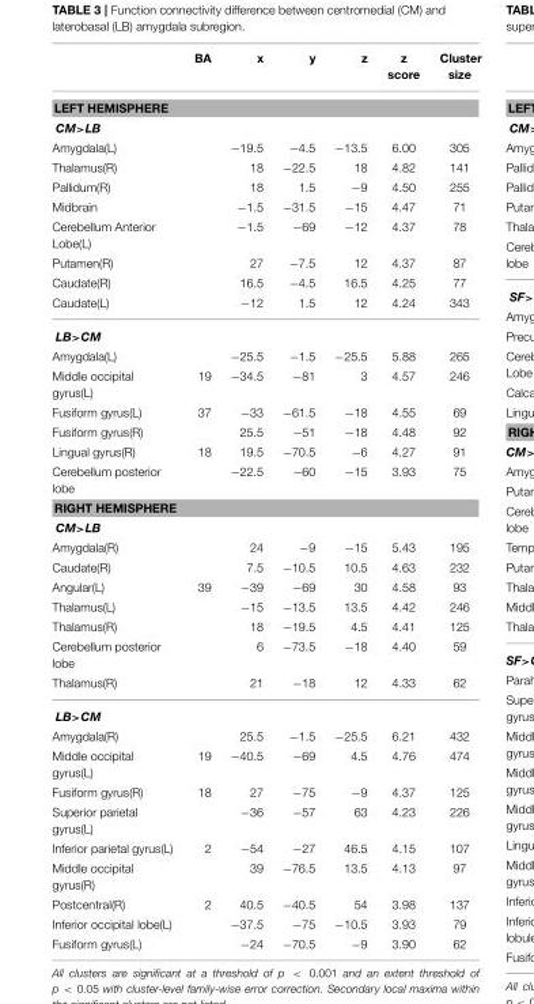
<table><thead><tr><td></td><td>BA</td><td>x</td><td>y</td><td>z</td><td>z score</td><td>Cluster size</td></tr></thead><tbody><tr><td colspan="7">LEFT HEMISPHERE</td></tr><tr><td colspan="7">CM&gt;LB</td></tr><tr><td>Amygdala(L)</td><td></td><td>−19.5</td><td>−4.5</td><td>−13.5</td><td>6.00</td><td>305</td></tr><tr><td>Thalamus(R)</td><td></td><td>18</td><td>−22.5</td><td>18</td><td>4.82</td><td>141</td></tr><tr><td>Pallidum(R)</td><td></td><td>18</td><td>1.5</td><td>−9</td><td>4.50</td><td>255</td></tr><tr><td>Midbrain</td><td></td><td>−1.5</td><td>−31.5</td><td>−15</td><td>4.47</td><td>71</td></tr><tr><td>Cerebellum Anterior Lobe(L)</td><td></td><td>−1.5</td><td>−69</td><td>−12</td><td>4.37</td><td>78</td></tr><tr><td>Putamen(R)</td><td></td><td>27</td><td>−7.5</td><td>12</td><td>4.37</td><td>87</td></tr><tr><td>Caudate(R)</td><td></td><td>16.5</td><td>−4.5</td><td>16.5</td><td>4.25</td><td>77</td></tr><tr><td>Caudate(L)</td><td></td><td>−12</td><td>1.5</td><td>12</td><td>4.24</td><td>343</td></tr><tr><td colspan="7">LB&gt;CM</td></tr><tr><td>Amygdala(L)</td><td></td><td>−25.5</td><td>−1.5</td><td>−25.5</td><td>5.88</td><td>265</td></tr><tr><td>Middle occipital gyrus(L)</td><td>19</td><td>−34.5</td><td>−81</td><td>3</td><td>4.57</td><td>246</td></tr><tr><td>Fusiform gyrus(L)</td><td>37</td><td>−33</td><td>−61.5</td><td>−18</td><td>4.55</td><td>69</td></tr><tr><td>Fusiform gyrus(R)</td><td></td><td>25.5</td><td>−51</td><td>−18</td><td>4.48</td><td>92</td></tr><tr><td>Lingual gyrus(R)</td><td>18</td><td>19.5</td><td>−70.5</td><td>−6</td><td>4.27</td><td>91</td></tr><tr><td>Cerebellum posterior lobe</td><td></td><td>−22.5</td><td>−60</td><td>−15</td><td>3.93</td><td>75</td></tr><tr><td colspan="7">RIGHT HEMISPHERE</td></tr><tr><td colspan="7">CM&gt;LB</td></tr><tr><td>Amygdala(R)</td><td></td><td>24</td><td>−9</td><td>−15</td><td>5.43</td><td>195</td></tr><tr><td>Caudate(R)</td><td></td><td>7.5</td><td>−10.5</td><td>10.5</td><td>4.63</td><td>232</td></tr><tr><td>Angular(L)</td><td>39</td><td>−39</td><td>−69</td><td>30</td><td>4.58</td><td>93</td></tr><tr><td>Thalamus(L)</td><td></td><td>−15</td><td>−13.5</td><td>13.5</td><td>4.42</td><td>246</td></tr><tr><td>Thalamus(R)</td><td></td><td>18</td><td>−19.5</td><td>4.5</td><td>4.41</td><td>125</td></tr><tr><td>Cerebellum posterior lobe</td><td></td><td>6</td><td>−73.5</td><td>−18</td><td>4.40</td><td>59</td></tr><tr><td>Thalamus(R)</td><td></td><td>21</td><td>−18</td><td>12</td><td>4.33</td><td>62</td></tr><tr><td colspan="7">LB&gt;CM</td></tr><tr><td>Amygdala(R)</td><td></td><td>25.5</td><td>−1.5</td><td>−25.5</td><td>6.21</td><td>432</td></tr><tr><td>Middle occipital gyrus(L)</td><td>19</td><td>−40.5</td><td>−69</td><td>4.5</td><td>4.76</td><td>474</td></tr><tr><td>Fusiform gyrus(R)</td><td>18</td><td>27</td><td>−75</td><td>−9</td><td>4.37</td><td>125</td></tr><tr><td>Superior parietal gyrus(L)</td><td></td><td>−36</td><td>−57</td><td>63</td><td>4.23</td><td>226</td></tr><tr><td>Inferior parietal gyrus(L)</td><td>2</td><td>−54</td><td>−27</td><td>46.5</td><td>4.15</td><td>107</td></tr><tr><td>Middle occipital gyrus(R)</td><td></td><td>39</td><td>−76.5</td><td>13.5</td><td>4.13</td><td>97</td></tr><tr><td>Postcentral(R)</td><td>2</td><td>40.5</td><td>−40.5</td><td>54</td><td>3.98</td><td>137</td></tr><tr><td>Inferior occipital lobe(L)</td><td></td><td>−37.5</td><td>−75</td><td>−10.5</td><td>3.93</td><td>79</td></tr><tr><td>Fusiform gyrus(L)</td><td></td><td>−24</td><td>−70.5</td><td>−9</td><td>3.90</td><td>62</td></tr></tbody></table>